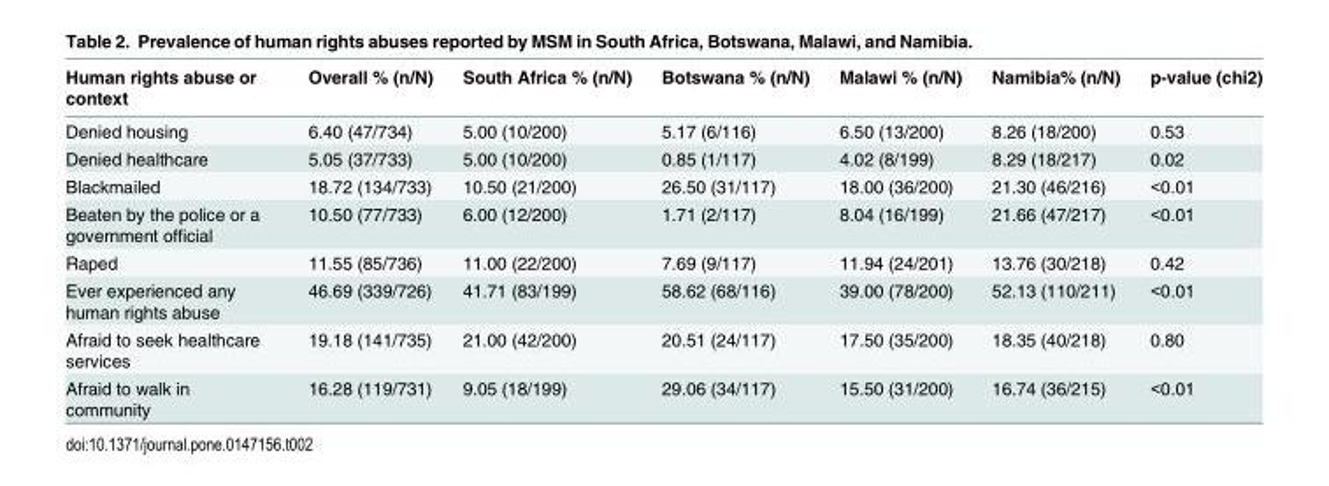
<table><thead><tr><td>Human rights abuse or context</td><td>Overall % (n/N)</td><td>South Africa % (n/N)</td><td>Botswana % (n/N)</td><td>Malawi % (n/N)</td><td>Namibia% (n/N)</td><td>p-value (chi2)</td></tr></thead><tbody><tr><td>Denied housing</td><td>6.40 (47/734)</td><td>5.00 (10/200)</td><td>5.17 (6/116)</td><td>6.50 (13/200)</td><td>8.26 (18/200)</td><td>0.53</td></tr><tr><td>Denied healthcare</td><td>5.05 (37/733)</td><td>5.00 (10/200)</td><td>0.85 (1/117)</td><td>4.02 (8/199)</td><td>8.29 (18/217)</td><td>0.02</td></tr><tr><td>Blackmailed</td><td>18.72 (134/733)</td><td>10.50 (21/200)</td><td>26.50 (31/117)</td><td>18.00 (36/200)</td><td>21.30 (46/216)</td><td>&lt;0.01</td></tr><tr><td>Beaten by the police or a government official</td><td>10.50 (77/733)</td><td>6.00 (12/200)</td><td>1.71 (2/117)</td><td>8.04 (16/199)</td><td>21.66 (47/217)</td><td>&lt;0.01</td></tr><tr><td>Raped</td><td>11.55 (85/736)</td><td>11.00 (22/200)</td><td>7.69 (9/117)</td><td>11.94 (24/201)</td><td>13.76 (30/218)</td><td>0.42</td></tr><tr><td>Ever experienced any human rights abuse</td><td>46.69 (339/726)</td><td>41.71 (83/199)</td><td>58.62 (68/116)</td><td>39.00 (78/200)</td><td>52.13 (110/211)</td><td>&lt;0.01</td></tr><tr><td>Afraid to seek healthcare services</td><td>19.18 (141/735)</td><td>21.00 (42/200)</td><td>20.51 (24/117)</td><td>17.50 (35/200)</td><td>18.35 (40/218)</td><td>0.80</td></tr><tr><td>Afraid to walk in community</td><td>16.28 (119/731)</td><td>9.05 (18/199)</td><td>29.06 (34/117)</td><td>15.50 (31/200)</td><td>16.74 (36/215)</td><td>&lt;0.01</td></tr></tbody></table>